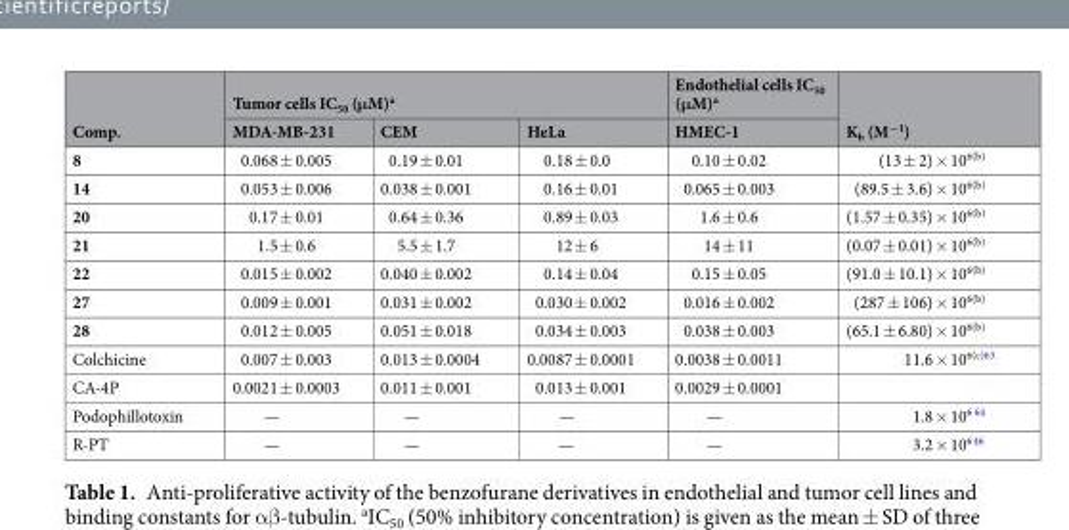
<table><thead><tr><td rowspan="2">Comp.</td><td colspan="3">Tumor cells IC<sub>50</sub> (μM)<sup>a</sup></td><td rowspan="2">Endothelial cells IC<sub>50</sub> (μM)<sup>a</sup> HMEC-1</td><td rowspan="2">K<sub>b</sub> (M<sup>−1</sup>)</td></tr><tr><td>MDA-MB-231</td><td>CEM</td><td>HeLa</td></tr></thead><tbody><tr><td>8</td><td>0.068 ± 0.005</td><td>0.19 ± 0.01</td><td>0.18 ± 0.0</td><td>0.10 ± 0.02</td><td>(13 ± 2) × 10<sup>6(b)</sup></td></tr><tr><td>14</td><td>0.053 ± 0.006</td><td>0.038 ± 0.001</td><td>0.16 ± 0.01</td><td>0.065 ± 0.003</td><td>(89.5 ± 3.6) × 10<sup>6(b)</sup></td></tr><tr><td>20</td><td>0.17 ± 0.01</td><td>0.64 ± 0.36</td><td>0.89 ± 0.03</td><td>1.6 ± 0.6</td><td>(1.57 ± 0.35) × 10<sup>6(b)</sup></td></tr><tr><td>21</td><td>1.5 ± 0.6</td><td>5.5 ± 1.7</td><td>12 ± 6</td><td>14 ± 11</td><td>(0.07 ± 0.01) × 10<sup>6(b)</sup></td></tr><tr><td>22</td><td>0.015 ± 0.002</td><td>0.040 ± 0.002</td><td>0.14 ± 0.04</td><td>0.15 ± 0.05</td><td>(91.0 ± 10.1) × 10<sup>6(b)</sup></td></tr><tr><td>27</td><td>0.009 ± 0.001</td><td>0.031 ± 0.002</td><td>0.030 ± 0.002</td><td>0.016 ± 0.002</td><td>(287 ± 106) × 10<sup>6(b)</sup></td></tr><tr><td>28</td><td>0.012 ± 0.005</td><td>0.051 ± 0.018</td><td>0.034 ± 0.003</td><td>0.038 ± 0.003</td><td>(65.1 ± 6.80) × 10<sup>6(b)</sup></td></tr><tr><td>Colchicine</td><td>0.007 ± 0.003</td><td>0.013 ± 0.0004</td><td>0.0087 ± 0.0001</td><td>0.0038 ± 0.0011</td><td>11.6 × 10<sup>6(c)63</sup></td></tr><tr><td>CA-4P</td><td>0.0021 ± 0.0003</td><td>0.011 ± 0.001</td><td>0.013 ± 0.001</td><td>0.0029 ± 0.0001</td><td></td></tr><tr><td>Podophillotoxin</td><td>—</td><td>—</td><td>—</td><td>—</td><td>1.8 × 10<sup>6 64</sup></td></tr><tr><td>R-PT</td><td>—</td><td>—</td><td>—</td><td>—</td><td>3.2 × 10<sup>6 46</sup></td></tr></tbody></table>